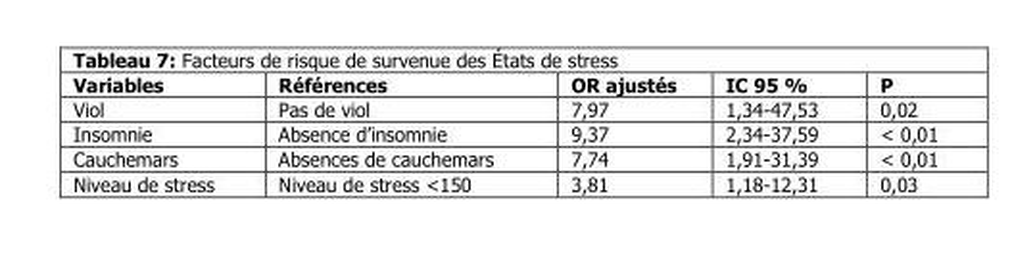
<table><thead><tr><td>Variables</td><td>Références</td><td>OR ajustés</td><td>IC 95 %</td><td>P</td></tr></thead><tbody><tr><td>Viol</td><td>Pas de viol</td><td>7,97</td><td>1,34-47,53</td><td>0,02</td></tr><tr><td>Insomnie</td><td>Absence d’insomnie</td><td>9,37</td><td>2,34-37,59</td><td>&lt; 0,01</td></tr><tr><td>Cauchemars</td><td>Absences de cauchemars</td><td>7,74</td><td>1,91-31,39</td><td>&lt; 0,01</td></tr><tr><td>Niveau de stress</td><td>Niveau de stress &lt;150</td><td>3,81</td><td>1,18-12,31</td><td>0,03</td></tr></tbody></table>